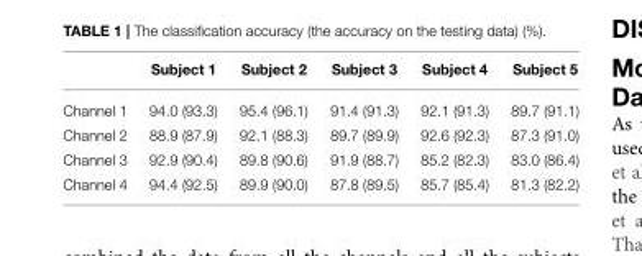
<table><thead><tr><td></td><td>Subject 1</td><td>Subject 2</td><td>Subject 3</td><td>Subject 4</td><td>Subject 5</td></tr></thead><tbody><tr><td>Channel 1</td><td>94.0 (93.3)</td><td>95.4 (96.1)</td><td>91.4 (91.3)</td><td>92.1 (91.3)</td><td>89.7 (91.1)</td></tr><tr><td>Channel 2</td><td>88.9 (87.9)</td><td>92.1 (88.3)</td><td>89.7 (89.9)</td><td>92.6 (92.3)</td><td>87.3 (91.0)</td></tr><tr><td>Channel 3</td><td>92.9 (90.4)</td><td>89.8 (90.6)</td><td>91.9 (88.7)</td><td>85.2 (82.3)</td><td>83.0 (86.4)</td></tr><tr><td>Channel 4</td><td>94.4 (92.5)</td><td>89.9 (90.0)</td><td>87.8 (89.5)</td><td>85.7 (85.4)</td><td>81.3 (82.2)</td></tr></tbody></table>